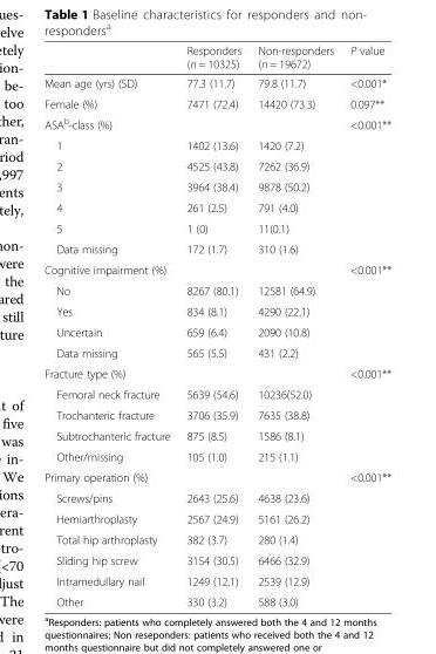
<table><thead><tr><td></td><td>Responders (n = 10325)</td><td>Non-responders (n = 19672)</td><td>P value</td></tr></thead><tbody><tr><td>Mean age (yrs) (SD)</td><td>77.3 (11.7)</td><td>79.8 (11.7)</td><td>&lt;0.001*</td></tr><tr><td>Female (%)</td><td>7471 (72.4)</td><td>14420 (73.3)</td><td>0.097**</td></tr><tr><td>ASA<sup>b</sup>-class (%)</td><td></td><td></td><td>&lt;0.001**</td></tr><tr><td>1</td><td>1402 (13.6)</td><td>1420 (7.2)</td><td></td></tr><tr><td>2</td><td>4525 (43.8)</td><td>7262 (36.9)</td><td></td></tr><tr><td>3</td><td>3964 (38.4)</td><td>9878 (50.2)</td><td></td></tr><tr><td>4</td><td>261 (2.5)</td><td>791 (4.0)</td><td></td></tr><tr><td>5</td><td>1 (0)</td><td>11(0.1)</td><td></td></tr><tr><td>Data missing</td><td>172 (1.7)</td><td>310 (1.6)</td><td></td></tr><tr><td>Cognitive impairment (%)</td><td></td><td></td><td>&lt;0.001**</td></tr><tr><td>No</td><td>8267 (80.1)</td><td>12581 (64.9)</td><td></td></tr><tr><td>Yes</td><td>834 (8.1)</td><td>4290 (22.1)</td><td></td></tr><tr><td>Uncertain</td><td>659 (6.4)</td><td>2090 (10.8)</td><td></td></tr><tr><td>Data missing</td><td>565 (5.5)</td><td>431 (2.2)</td><td></td></tr><tr><td>Fracture type (%)</td><td></td><td></td><td>&lt;0.001**</td></tr><tr><td>Femoral neck fracture</td><td>5639 (54.6)</td><td>10236(52.0)</td><td></td></tr><tr><td>Trochanteric fracture</td><td>3706 (35.9)</td><td>7635 (38.8)</td><td></td></tr><tr><td>Subtrochanteric fracture</td><td>875 (8.5)</td><td>1586 (8.1)</td><td></td></tr><tr><td>Other/missing</td><td>105 (1.0)</td><td>215 (1.1)</td><td></td></tr><tr><td>Primary operation (%)</td><td></td><td></td><td>&lt;0.001**</td></tr><tr><td>Screws/pins</td><td>2643 (25.6)</td><td>4638 (23.6)</td><td></td></tr><tr><td>Hemiarthroplasty</td><td>2567 (24.9)</td><td>5161 (26.2)</td><td></td></tr><tr><td>Total hip arthroplasty</td><td>382 (3.7)</td><td>280 (1.4)</td><td></td></tr><tr><td>Sliding hip screw</td><td>3154 (30.5)</td><td>6466 (32.9)</td><td></td></tr><tr><td>Intramedullary nail</td><td>1249 (12.1)</td><td>2539 (12.9)</td><td></td></tr><tr><td>Other</td><td>330 (3.2)</td><td>588 (3.0)</td><td></td></tr></tbody></table>